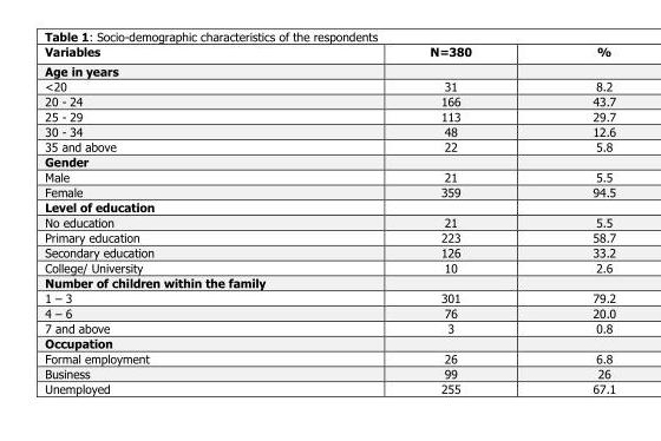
<table><thead><tr><td>Variables</td><td>N=380</td><td>%</td></tr></thead><tbody><tr><td colspan="3">Age in years</td></tr><tr><td>&lt;20</td><td>31</td><td>8.2</td></tr><tr><td>20 - 24</td><td>166</td><td>43.7</td></tr><tr><td>25 - 29</td><td>113</td><td>29.7</td></tr><tr><td>30 - 34</td><td>48</td><td>12.6</td></tr><tr><td>35 and above</td><td>22</td><td>5.8</td></tr><tr><td colspan="3">Gender</td></tr><tr><td>Male</td><td>21</td><td>5.5</td></tr><tr><td>Female</td><td>359</td><td>94.5</td></tr><tr><td colspan="3">Level of education</td></tr><tr><td>No education</td><td>21</td><td>5.5</td></tr><tr><td>Primary education</td><td>223</td><td>58.7</td></tr><tr><td>Secondary education</td><td>126</td><td>33.2</td></tr><tr><td>College/ University</td><td>10</td><td>2.6</td></tr><tr><td colspan="3">Number of children within the family</td></tr><tr><td>1 – 3</td><td>301</td><td>79.2</td></tr><tr><td>4 – 6</td><td>76</td><td>20.0</td></tr><tr><td>7 and above</td><td>3</td><td>0.8</td></tr><tr><td colspan="3">Occupation</td></tr><tr><td>Formal employment</td><td>26</td><td>6.8</td></tr><tr><td>Business</td><td>99</td><td>26</td></tr><tr><td>Unemployed</td><td>255</td><td>67.1</td></tr></tbody></table>